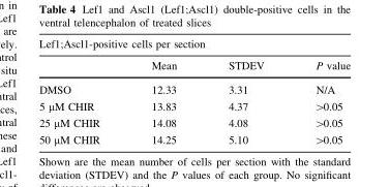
<table><thead><tr><td colspan="4">Lef1;Ascl1-positive cells per section</td></tr><tr><td></td><td>Mean</td><td>STDEV</td><td>P value</td></tr></thead><tbody><tr><td>DMSO</td><td>12.33</td><td>3.31</td><td>N/A</td></tr><tr><td>5 μM CHIR</td><td>13.83</td><td>4.37</td><td>&gt;0.05</td></tr><tr><td>25 μM CHIR</td><td>14.08</td><td>4.08</td><td>&gt;0.05</td></tr><tr><td>50 μM CHIR</td><td>14.25</td><td>5.10</td><td>&gt;0.05</td></tr></tbody></table>